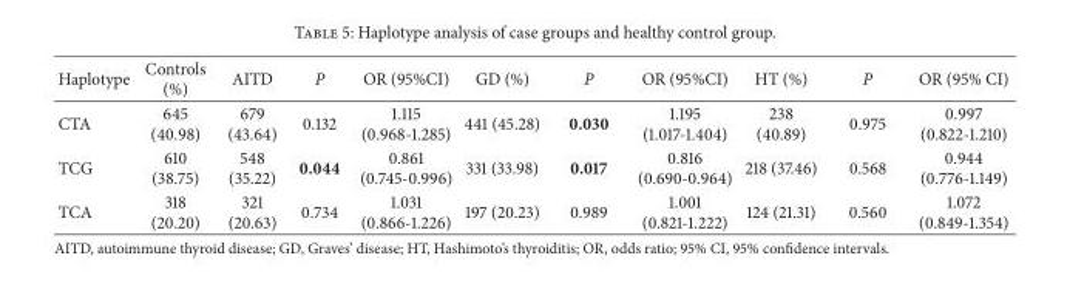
<table><thead><tr><td>Haplotype</td><td>Controls (%)</td><td>AITD</td><td>P</td><td>OR (95%CI)</td><td>GD (%)</td><td>P</td><td>OR (95%CI)</td><td>HT (%)</td><td>P</td><td>OR (95% CI)</td></tr></thead><tbody><tr><td>CTA</td><td>645 (40.98)</td><td>679 (43.64)</td><td>0.132</td><td>1.115 (0.968-1.285)</td><td>441 (45.28)</td><td>0.030</td><td>1.195 (1.017-1.404)</td><td>238 (40.89)</td><td>0.975</td><td>0.997 (0.822-1.210)</td></tr><tr><td>TCG</td><td>610 (38.75)</td><td>548 (35.22)</td><td>0.044</td><td>0.861 (0.745-0.996)</td><td>331 (33.98)</td><td>0.017</td><td>0.816 (0.690-0.964)</td><td>218 (37.46)</td><td>0.568</td><td>0.944 (0.776-1.149)</td></tr><tr><td>TCA</td><td>318 (20.20)</td><td>321 (20.63)</td><td>0.734</td><td>1.031 (0.866-1.226)</td><td>197 (20.23)</td><td>0.989</td><td>1.001 (0.821-1.222)</td><td>124 (21.31)</td><td>0.560</td><td>1.072 (0.849-1.354)</td></tr></tbody></table>